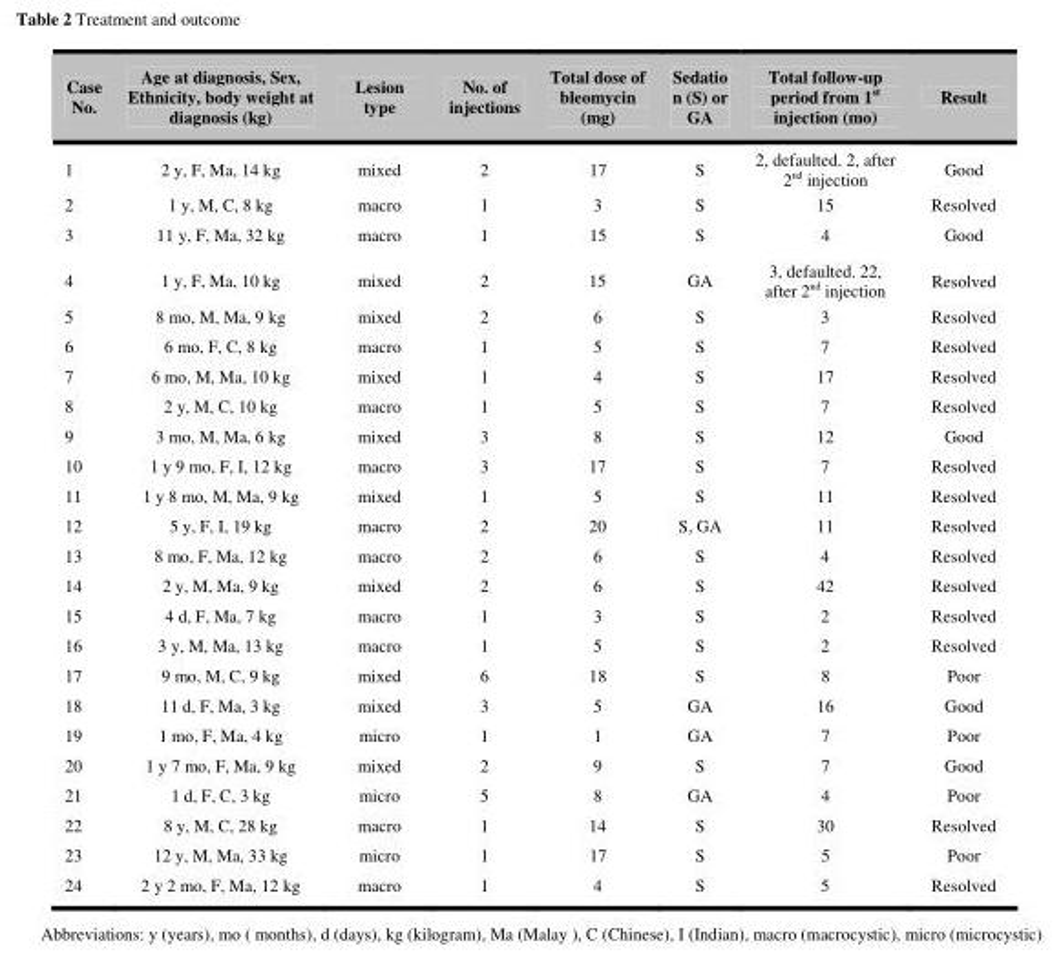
<table><thead><tr><td>Case No.</td><td>Age at diagnosis, Sex, Ethnicity, body weight at diagnosis (kg)</td><td>Lesion type</td><td>No. of injections</td><td>Total dose of bleomycin (mg)</td><td>Sedatio n (S) or GA</td><td>Total follow-up period from 1<sup>st</sup> injection (mo)</td><td>Result</td></tr></thead><tbody><tr><td>1</td><td>2 y, F, Ma, 14 kg</td><td>mixed</td><td>2</td><td>17</td><td>S</td><td>2, defaulted. 2, after 2<sup>nd</sup> injection</td><td>Good</td></tr><tr><td>2</td><td>1 y, M, C, 8 kg</td><td>macro</td><td>1</td><td>3</td><td>S</td><td>15</td><td>Resolved</td></tr><tr><td>3</td><td>11 y, F, Ma, 32 kg</td><td>macro</td><td>1</td><td>15</td><td>S</td><td>4</td><td>Good</td></tr><tr><td>4</td><td>1 y, F, Ma, 10 kg</td><td>mixed</td><td>2</td><td>15</td><td>GA</td><td>3, defaulted. 22, after 2<sup>nd</sup> injection</td><td>Resolved</td></tr><tr><td>5</td><td>8 mo, M, Ma, 9 kg</td><td>mixed</td><td>2</td><td>6</td><td>S</td><td>3</td><td>Resolved</td></tr><tr><td>6</td><td>6 mo, F, C, 8 kg</td><td>macro</td><td>1</td><td>5</td><td>S</td><td>7</td><td>Resolved</td></tr><tr><td>7</td><td>6 mo, M, Ma, 10 kg</td><td>mixed</td><td>1</td><td>4</td><td>S</td><td>17</td><td>Resolved</td></tr><tr><td>8</td><td>2 y, M, C, 10 kg</td><td>macro</td><td>1</td><td>5</td><td>S</td><td>7</td><td>Resolved</td></tr><tr><td>9</td><td>3 mo, M, Ma, 6 kg</td><td>mixed</td><td>3</td><td>8</td><td>S</td><td>12</td><td>Good</td></tr><tr><td>10</td><td>1 y 9 mo, F, I, 12 kg</td><td>macro</td><td>3</td><td>17</td><td>S</td><td>7</td><td>Resolved</td></tr><tr><td>11</td><td>1 y 8 mo, M, Ma, 9 kg</td><td>mixed</td><td>1</td><td>5</td><td>S</td><td>11</td><td>Resolved</td></tr><tr><td>12</td><td>5 y, F, I, 19 kg</td><td>macro</td><td>2</td><td>20</td><td>S, GA</td><td>11</td><td>Resolved</td></tr><tr><td>13</td><td>8 mo, F, Ma, 12 kg</td><td>macro</td><td>2</td><td>6</td><td>S</td><td>4</td><td>Resolved</td></tr><tr><td>14</td><td>2 y, M, Ma, 9 kg</td><td>mixed</td><td>2</td><td>6</td><td>S</td><td>42</td><td>Resolved</td></tr><tr><td>15</td><td>4 d, F, Ma, 7 kg</td><td>macro</td><td>1</td><td>3</td><td>S</td><td>2</td><td>Resolved</td></tr><tr><td>16</td><td>3 y, M, Ma, 13 kg</td><td>macro</td><td>1</td><td>5</td><td>S</td><td>2</td><td>Resolved</td></tr><tr><td>17</td><td>9 mo, M, C, 9 kg</td><td>mixed</td><td>6</td><td>18</td><td>S</td><td>8</td><td>Poor</td></tr><tr><td>18</td><td>11 d, F, Ma, 3 kg</td><td>mixed</td><td>3</td><td>5</td><td>GA</td><td>16</td><td>Good</td></tr><tr><td>19</td><td>1 mo, F, Ma, 4 kg</td><td>micro</td><td>1</td><td>1</td><td>GA</td><td>7</td><td>Poor</td></tr><tr><td>20</td><td>1 y 7 mo, F, Ma, 9 kg</td><td>mixed</td><td>2</td><td>9</td><td>S</td><td>7</td><td>Good</td></tr><tr><td>21</td><td>1 d, F, C, 3 kg</td><td>micro</td><td>5</td><td>8</td><td>GA</td><td>4</td><td>Poor</td></tr><tr><td>22</td><td>8 y, M, C, 28 kg</td><td>macro</td><td>1</td><td>14</td><td>S</td><td>30</td><td>Resolved</td></tr><tr><td>23</td><td>12 y, M, Ma, 33 kg</td><td>micro</td><td>1</td><td>17</td><td>S</td><td>5</td><td>Poor</td></tr><tr><td>24</td><td>2 y 2 mo, F, Ma, 12 kg</td><td>macro</td><td>1</td><td>4</td><td>S</td><td>5</td><td>Resolved</td></tr></tbody></table>